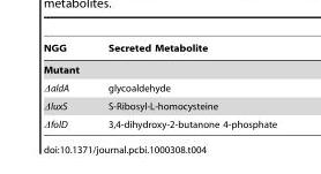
<table><thead><tr><td>NGG</td><td>Secreted Metabolite</td></tr></thead><tbody><tr><td colspan="2">Mutant</td></tr><tr><td>ΔaldA</td><td>glycoaldehyde</td></tr><tr><td>ΔluxS</td><td>S-Ribosyl-L-homocysteine</td></tr><tr><td>ΔfolD</td><td>3,4-dihydroxy-2-butanone 4-phosphate</td></tr></tbody></table>